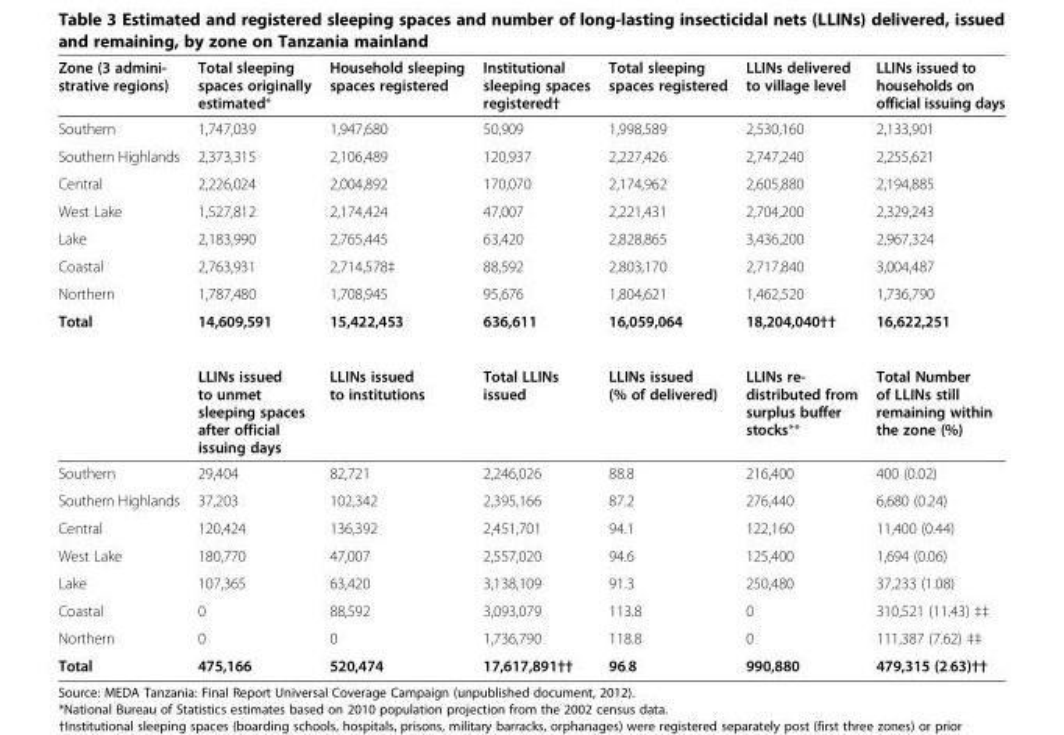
<table><thead><tr><td>Zone (3 admini- strative regions)</td><td>Total sleeping spaces originally estimated*</td><td>Household sleeping spaces registered</td><td>Institutional sleeping spaces registered†</td><td>Total sleeping spaces registered</td><td>LLINs delivered to village level</td><td>LLINs issued to households on official issuing days</td></tr></thead><tbody><tr><td>Southern</td><td>1,747,039</td><td>1,947,680</td><td>50,909</td><td>1,998,589</td><td>2,530,160</td><td>2,133,901</td></tr><tr><td>Southern Highlands</td><td>2,373,315</td><td>2,106,489</td><td>120,937</td><td>2,227,426</td><td>2,747,240</td><td>2,255,621</td></tr><tr><td>Central</td><td>2,226,024</td><td>2,004,892</td><td>170,070</td><td>2,174,962</td><td>2,605,880</td><td>2,194,885</td></tr><tr><td>West Lake</td><td>1,527,812</td><td>2,174,424</td><td>47,007</td><td>2,221,431</td><td>2,704,200</td><td>2,329,243</td></tr><tr><td>Lake</td><td>2,183,990</td><td>2,765,445</td><td>63,420</td><td>2,828,865</td><td>3,436,200</td><td>2,967,324</td></tr><tr><td>Coastal</td><td>2,763,931</td><td>2,714,578‡</td><td>88,592</td><td>2,803,170</td><td>2,717,840</td><td>3,004,487</td></tr><tr><td>Northern</td><td>1,787,480</td><td>1,708,945</td><td>95,676</td><td>1,804,621</td><td>1,462,520</td><td>1,736,790</td></tr><tr><td rowspan="2">Total</td><td>14,609,591</td><td>15,422,453</td><td>636,611</td><td>16,059,064</td><td>18,204,040††</td><td>16,622,251</td></tr><tr><td>LLINs issued to unmet sleeping spaces after official issuing days</td><td>LLINs issued to institutions</td><td>Total LLINs issued</td><td>LLINs issued (% of delivered)</td><td>LLINs re- distributed from surplus buffer stocks**</td><td>Total Number of LLINs still remaining within the zone (%)</td></tr><tr><td>Southern</td><td>29,404</td><td>82,721</td><td>2,246,026</td><td>88.8</td><td>216,400</td><td>400 (0.02)</td></tr><tr><td>Southern Highlands</td><td>37,203</td><td>102,342</td><td>2,395,166</td><td>87.2</td><td>276,440</td><td>6,680 (0.24)</td></tr><tr><td>Central</td><td>120,424</td><td>136,392</td><td>2,451,701</td><td>94.1</td><td>122,160</td><td>11,400 (0.44)</td></tr><tr><td>West Lake</td><td>180,770</td><td>47,007</td><td>2,557,020</td><td>94.6</td><td>125,400</td><td>1,694 (0.06)</td></tr><tr><td>Lake</td><td>107,365</td><td>63,420</td><td>3,138,109</td><td>91.3</td><td>250,480</td><td>37,233 (1.08)</td></tr><tr><td>Coastal</td><td>0</td><td>88,592</td><td>3,093,079</td><td>113.8</td><td>0</td><td>310,521 (11.43) ‡‡</td></tr><tr><td>Northern</td><td>0</td><td>0</td><td>1,736,790</td><td>118.8</td><td>0</td><td>111,387 (7.62) ‡‡</td></tr><tr><td>Total</td><td>475,166</td><td>520,474</td><td>17,617,891††</td><td>96.8</td><td>990,880</td><td>479,315 (2.63)††</td></tr></tbody></table>